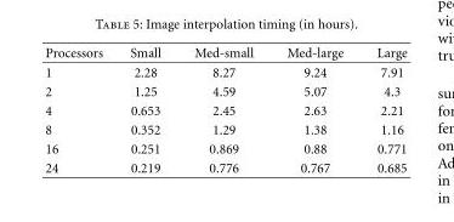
<table><thead><tr><td>Processors</td><td>Small</td><td>Med-small</td><td>Med-large</td><td>Large</td></tr></thead><tbody><tr><td>1</td><td>2.28</td><td>8.27</td><td>9.24</td><td>7.91</td></tr><tr><td>2</td><td>1.25</td><td>4.59</td><td>5.07</td><td>4.3</td></tr><tr><td>4</td><td>0.653</td><td>2.45</td><td>2.63</td><td>2.21</td></tr><tr><td>8</td><td>0.352</td><td>1.29</td><td>1.38</td><td>1.16</td></tr><tr><td>16</td><td>0.251</td><td>0.869</td><td>0.88</td><td>0.771</td></tr><tr><td>24</td><td>0.219</td><td>0.776</td><td>0.767</td><td>0.685</td></tr></tbody></table>